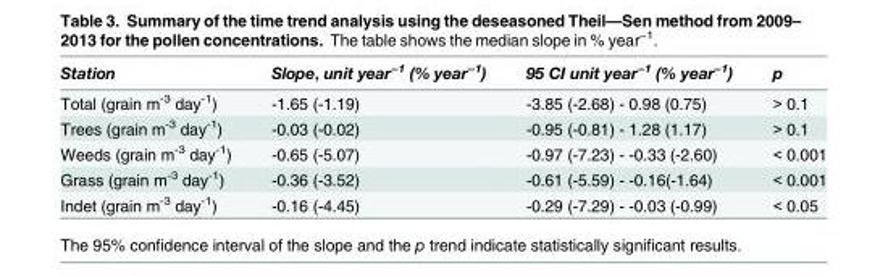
<table><thead><tr><td>Station</td><td>Slope, unit year<sup>−1</sup> (% year<sup>−1</sup>)</td><td>95 CI unit year<sup>−1</sup> (% year<sup>−1</sup>)</td><td>p</td></tr></thead><tbody><tr><td>Total (grain m<sup>-3</sup> day<sup>-1</sup>)</td><td>-1.65 (-1.19)</td><td>-3.85 (-2.68) - 0.98 (0.75)</td><td>&gt; 0.1</td></tr><tr><td>Trees (grain m<sup>-3</sup> day<sup>-1</sup>)</td><td>-0.03 (-0.02)</td><td>-0.95 (-0.81) - 1.28 (1.17)</td><td>&gt; 0.1</td></tr><tr><td>Weeds (grain m<sup>-3</sup> day<sup>-1</sup>)</td><td>-0.65 (-5.07)</td><td>-0.97 (-7.23) - -0.33 (-2.60)</td><td>&lt; 0.001</td></tr><tr><td>Grass (grain m<sup>-3</sup> day<sup>-1</sup>)</td><td>-0.36 (-3.52)</td><td>-0.61 (-5.59) - -0.16(-1.64)</td><td>&lt; 0.001</td></tr><tr><td>Indet (grain m<sup>-3</sup> day<sup>-1</sup>)</td><td>-0.16 (-4.45)</td><td>-0.29 (-7.29) - -0.03 (-0.99)</td><td>&lt; 0.05</td></tr></tbody></table>